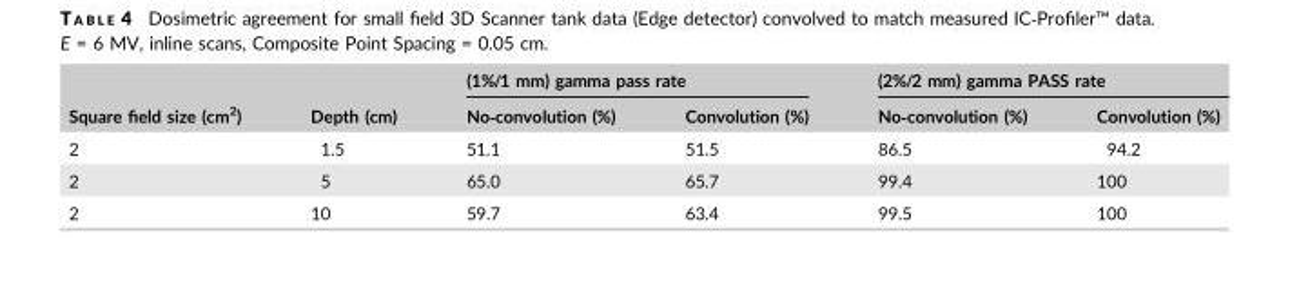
<table><thead><tr><td rowspan="2">Square field size (cm<sup>2</sup>)</td><td rowspan="2">Depth (cm)</td><td colspan="2">(1%/1 mm) gamma pass rate</td><td colspan="2">(2%/2 mm) gamma PASS rate</td></tr><tr><td>No‐convolution (%)</td><td>Convolution (%)</td><td>No‐convolution (%)</td><td>Convolution (%)</td></tr></thead><tbody><tr><td>2</td><td>1.5</td><td>51.1</td><td>51.5</td><td>86.5</td><td>94.2</td></tr><tr><td>2</td><td>5</td><td>65.0</td><td>65.7</td><td>99.4</td><td>100</td></tr><tr><td>2</td><td>10</td><td>59.7</td><td>63.4</td><td>99.5</td><td>100</td></tr></tbody></table>